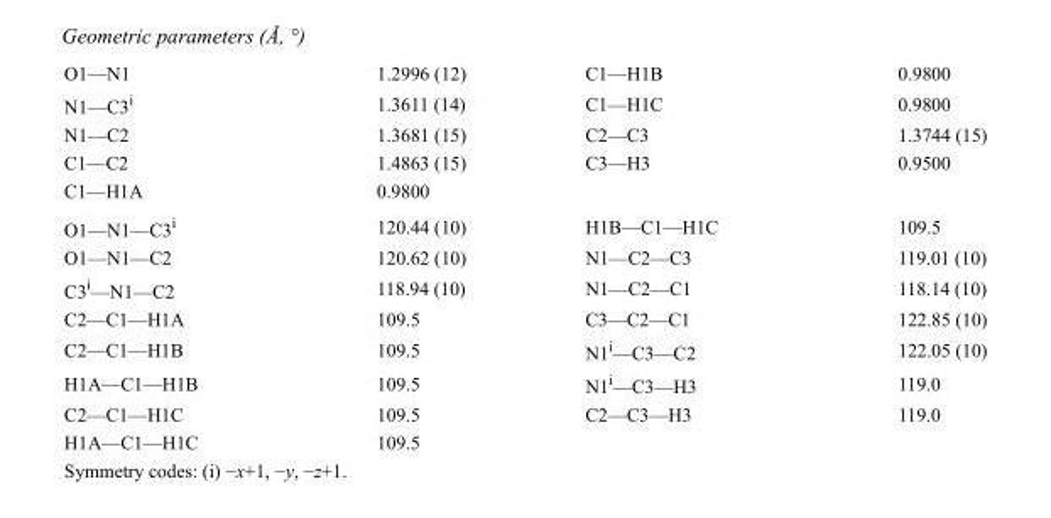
<table><tbody><tr><td>O1—N1</td><td>1.2996 (12)</td><td>C1—H1B</td><td>0.9800</td></tr><tr><td>N1—C3<sup>i</sup></td><td>1.3611 (14)</td><td>C1—H1C</td><td>0.9800</td></tr><tr><td>N1—C2</td><td>1.3681 (15)</td><td>C2—C3</td><td>1.3744 (15)</td></tr><tr><td>C1—C2</td><td>1.4863 (15)</td><td>C3—H3</td><td>0.9500</td></tr><tr><td>C1—H1A</td><td>0.9800</td><td></td><td></td></tr><tr><td>O1—N1—C3<sup>i</sup></td><td>120.44 (10)</td><td>H1B—C1—H1C</td><td>109.5</td></tr><tr><td>O1—N1—C2</td><td>120.62 (10)</td><td>N1—C2—C3</td><td>119.01 (10)</td></tr><tr><td>C3<sup>i</sup>—N1—C2</td><td>118.94 (10)</td><td>N1—C2—C1</td><td>118.14 (10)</td></tr><tr><td>C2—C1—H1A</td><td>109.5</td><td>C3—C2—C1</td><td>122.85 (10)</td></tr><tr><td>C2—C1—H1B</td><td>109.5</td><td>N1<sup>i</sup>—C3—C2</td><td>122.05 (10)</td></tr><tr><td>H1A—C1—H1B</td><td>109.5</td><td>N1<sup>i</sup>—C3—H3</td><td>119.0</td></tr><tr><td>C2—C1—H1C</td><td>109.5</td><td>C2—C3—H3</td><td>119.0</td></tr><tr><td>H1A—C1—H1C</td><td>109.5</td><td></td><td></td></tr></tbody></table>